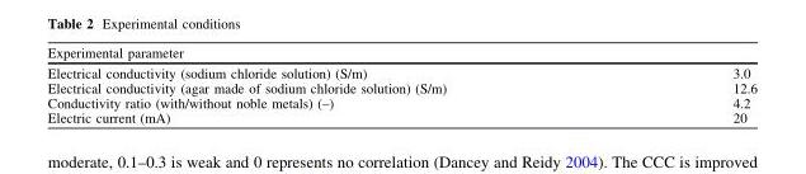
<table><thead><tr><td colspan="2">Experimental parameter</td></tr><tr><td>Electrical conductivity (sodium chloride solution) (S/m)</td><td>3.0</td></tr></thead><tbody><tr><td>Electrical conductivity (agar made of sodium chloride solution) (S/m)</td><td>12.6</td></tr><tr><td>Conductivity ratio (with/without noble metals) (–)</td><td>4.2</td></tr><tr><td>Electric current (mA)</td><td>20</td></tr></tbody></table>